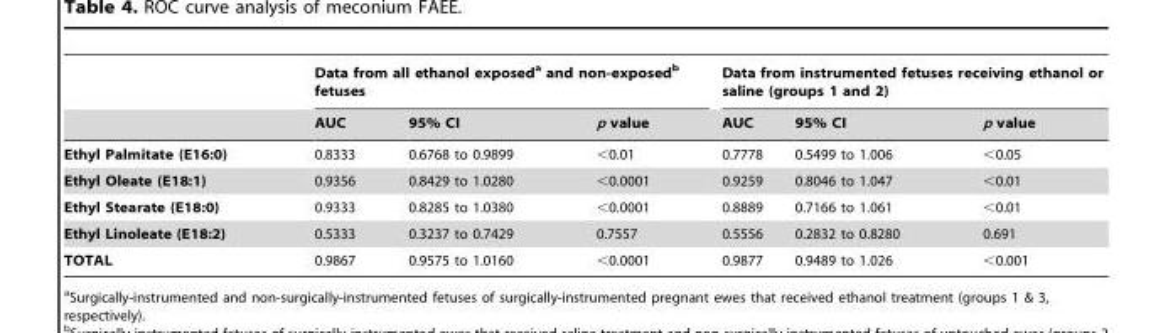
<table><thead><tr><td rowspan="2"></td><td colspan="3">Data from all ethanol exposed<sup>a</sup> and non-exposed<sup>b</sup> fetuses</td><td colspan="3">Data from instrumented fetuses receiving ethanol or saline (groups 1 and 2)</td></tr><tr><td>AUC</td><td>95% CI</td><td>p value</td><td>AUC</td><td>95% CI</td><td>p value</td></tr></thead><tbody><tr><td>Ethyl Palmitate (E16:0)</td><td>0.8333</td><td>0.6768 to 0.9899</td><td>&lt;0.01</td><td>0.7778</td><td>0.5499 to 1.006</td><td>&lt;0.05</td></tr><tr><td>Ethyl Oleate (E18:1)</td><td>0.9356</td><td>0.8429 to 1.0280</td><td>&lt;0.0001</td><td>0.9259</td><td>0.8046 to 1.047</td><td>&lt;0.01</td></tr><tr><td>Ethyl Stearate (E18:0)</td><td>0.9333</td><td>0.8285 to 1.0380</td><td>&lt;0.0001</td><td>0.8889</td><td>0.7166 to 1.061</td><td>&lt;0.01</td></tr><tr><td>Ethyl Linoleate (E18:2)</td><td>0.5333</td><td>0.3237 to 0.7429</td><td>0.7557</td><td>0.5556</td><td>0.2832 to 0.8280</td><td>0.691</td></tr><tr><td>TOTAL</td><td>0.9867</td><td>0.9575 to 1.0160</td><td>&lt;0.0001</td><td>0.9877</td><td>0.9489 to 1.026</td><td>&lt;0.001</td></tr></tbody></table>